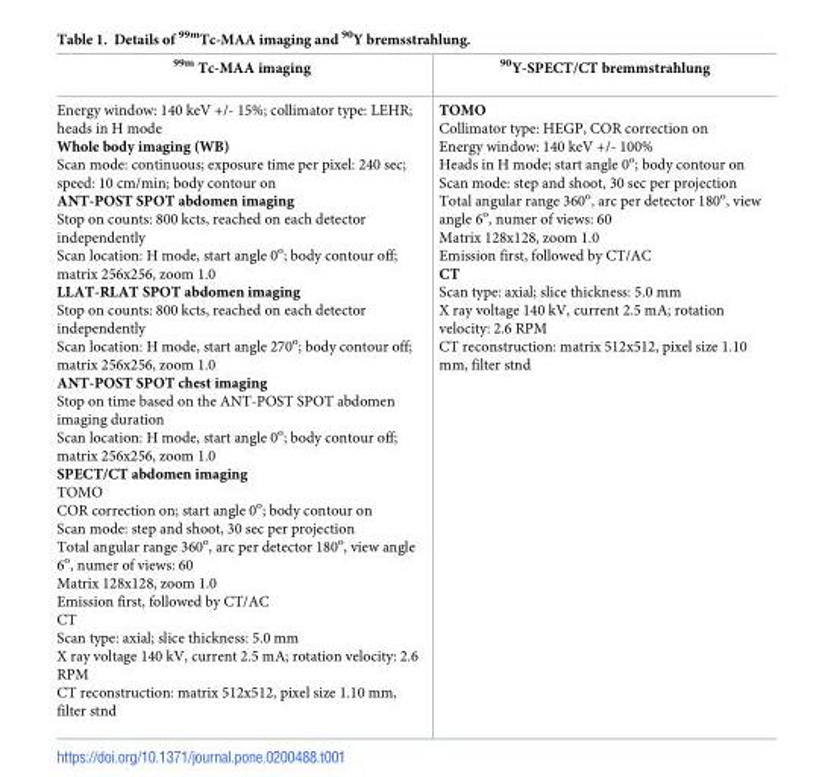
<table><thead><tr><td><sup>99m</sup> Tc-MAA imaging</td><td><sup>90</sup>Y-SPECT/CT bremmstrahlung</td></tr></thead><tbody><tr><td>Energy window: 140 keV +/- 15%; collimator type: LEHR; heads in H mode Whole body imaging (WB) Scan mode: continuous; exposure time per pixel: 240 sec; speed: 10 cm/min; body contour on ANT-POST SPOT abdomen imaging Stop on counts: 800 kcts, reached on each detector independently Scan location: H mode, start angle 0<sup>o</sup>; body contour off; matrix 256x256, zoom 1.0 LLAT-RLAT SPOT abdomen imaging Stop on counts: 800 kcts, reached on each detector independently Scan location: H mode, start angle 270<sup>o</sup>; body contour off; matrix 256x256, zoom 1.0 ANT-POST SPOT chest imaging Stop on time based on the ANT-POST SPOT abdomen imaging duration Scan location: H mode, start angle 0<sup>o</sup>; body contour off; matrix 256x256, zoom 1.0 SPECT/CT abdomen imaging TOMO COR correction on; start angle 0<sup>o</sup>; body contour on Scan mode: step and shoot, 30 sec per projection Total angular range 360<sup>o</sup>, arc per detector 180<sup>o</sup>, view angle 6<sup>o</sup>, numer of views: 60 Matrix 128x128, zoom 1.0 Emission first, followed by CT/AC CT Scan type: axial; slice thickness: 5.0 mm X ray voltage 140 kV, current 2.5 mA; rotation velocity: 2.6 RPM CT reconstruction: matrix 512x512, pixel size 1.10 mm, filter stnd</td><td>TOMO Collimator type: HEGP, COR correction on Energy window: 140 keV +/- 100% Heads in H mode; start angle 0<sup>o</sup>; body contour on Scan mode: step and shoot, 30 sec per projection Total angular range 360<sup>o</sup>, arc per detector 180<sup>o</sup>, view angle 6<sup>o</sup>, numer of views: 60 Matrix 128x128, zoom 1.0 Emission first, followed by CT/AC CT Scan type: axial; slice thickness: 5.0 mm X ray voltage 140 kV, current 2.5 mA; rotation velocity: 2.6 RPM CT reconstruction: matrix 512x512, pixel size 1.10 mm, filter stnd</td></tr></tbody></table>